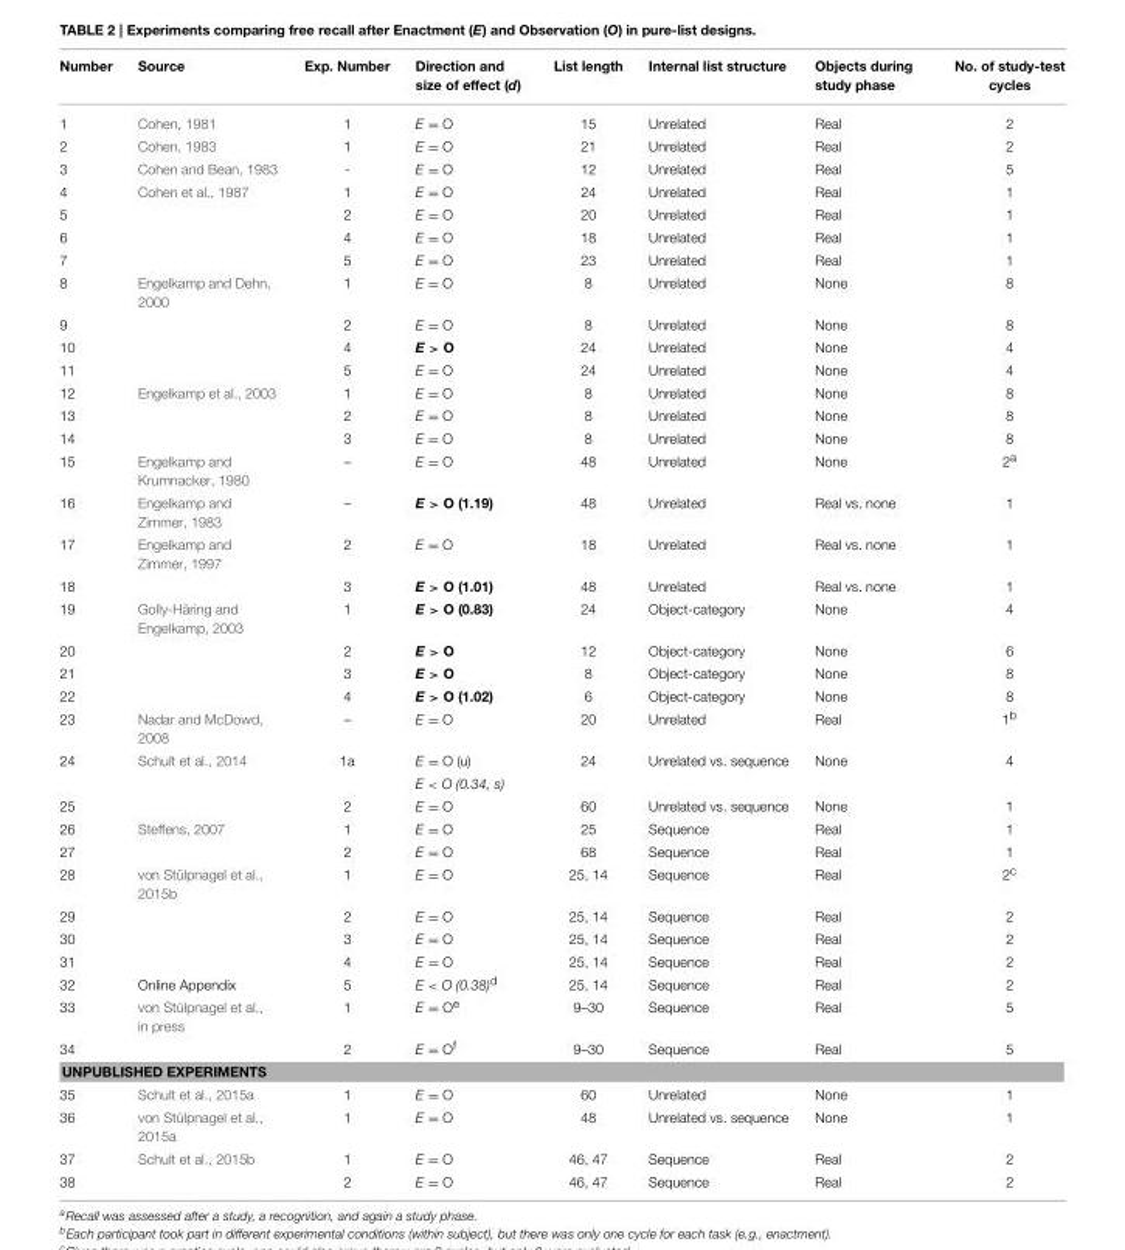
<table><thead><tr><td>Number</td><td>Source</td><td>Exp. Number</td><td>Direction and size of effect (d)</td><td>List length</td><td>Internal list structure</td><td>Objects during study phase</td><td>No. of study-test cycles</td></tr></thead><tbody><tr><td>1</td><td>Cohen, 1981</td><td>1</td><td>E = O</td><td>15</td><td>Unrelated</td><td>Real</td><td>2</td></tr><tr><td>2</td><td>Cohen, 1983</td><td>1</td><td>E = O</td><td>21</td><td>Unrelated</td><td>Real</td><td>2</td></tr><tr><td>3</td><td>Cohen and Bean, 1983</td><td>-</td><td>E = O</td><td>12</td><td>Unrelated</td><td>Real</td><td>5</td></tr><tr><td>4</td><td>Cohen et al., 1987</td><td>1</td><td>E = O</td><td>24</td><td>Unrelated</td><td>Real</td><td>1</td></tr><tr><td>5</td><td></td><td>2</td><td>E = O</td><td>20</td><td>Unrelated</td><td>Real</td><td>1</td></tr><tr><td>6</td><td></td><td>4</td><td>E = O</td><td>18</td><td>Unrelated</td><td>Real</td><td>1</td></tr><tr><td>7</td><td></td><td>5</td><td>E = O</td><td>23</td><td>Unrelated</td><td>Real</td><td>1</td></tr><tr><td>8</td><td>Engelkamp and Dehn, 2000</td><td>1</td><td>E = O</td><td>8</td><td>Unrelated</td><td>None</td><td>8</td></tr><tr><td>9</td><td></td><td>2</td><td>E = O</td><td>8</td><td>Unrelated</td><td>None</td><td>8</td></tr><tr><td>10</td><td></td><td>4</td><td>E &gt; O</td><td>24</td><td>Unrelated</td><td>None</td><td>4</td></tr><tr><td>11</td><td></td><td>5</td><td>E = O</td><td>24</td><td>Unrelated</td><td>None</td><td>4</td></tr><tr><td>12</td><td>Engelkamp et al., 2003</td><td>1</td><td>E = O</td><td>8</td><td>Unrelated</td><td>None</td><td>8</td></tr><tr><td>13</td><td></td><td>2</td><td>E = O</td><td>8</td><td>Unrelated</td><td>None</td><td>8</td></tr><tr><td>14</td><td></td><td>3</td><td>E = O</td><td>8</td><td>Unrelated</td><td>None</td><td>8</td></tr><tr><td>15</td><td>Engelkamp and Krumnacker, 1980</td><td>–</td><td>E = O</td><td>48</td><td>Unrelated</td><td>None</td><td>2<sup>a</sup></td></tr><tr><td>16</td><td>Engelkamp and Zimmer, 1983</td><td>–</td><td>E &gt; O (1.19)</td><td>48</td><td>Unrelated</td><td>Real vs. none</td><td>1</td></tr><tr><td>17</td><td>Engelkamp and Zimmer, 1997</td><td>2</td><td>E = O</td><td>18</td><td>Unrelated</td><td>Real vs. none</td><td>1</td></tr><tr><td>18</td><td></td><td>3</td><td>E &gt; O (1.01)</td><td>48</td><td>Unrelated</td><td>Real vs. none</td><td>1</td></tr><tr><td>19</td><td>Golly-Häring and Engelkamp, 2003</td><td>1</td><td>E &gt; O (0.83)</td><td>24</td><td>Object-category</td><td>None</td><td>4</td></tr><tr><td>20</td><td></td><td>2</td><td>E &gt; O</td><td>12</td><td>Object-category</td><td>None</td><td>6</td></tr><tr><td>21</td><td></td><td>3</td><td>E &gt; O</td><td>8</td><td>Object-category</td><td>None</td><td>8</td></tr><tr><td>22</td><td></td><td>4</td><td>E &gt; O (1.02)</td><td>6</td><td>Object-category</td><td>None</td><td>8</td></tr><tr><td>23</td><td>Nadar and McDowd, 2008</td><td>–</td><td>E = O</td><td>20</td><td>Unrelated</td><td>Real</td><td>1<sup>b</sup></td></tr><tr><td rowspan="2">24</td><td>Schult et al., 2014</td><td>1a</td><td>E = O (u)</td><td>24</td><td>Unrelated vs. sequence</td><td>None</td><td>4</td></tr><tr><td></td><td></td><td>E &lt; O (0.34, s)</td><td></td><td></td><td></td><td></td></tr><tr><td>25</td><td></td><td>2</td><td>E = O</td><td>60</td><td>Unrelated vs. sequence</td><td>None</td><td>1</td></tr><tr><td>26</td><td>Steffens, 2007</td><td>1</td><td>E = O</td><td>25</td><td>Sequence</td><td>Real</td><td>1</td></tr><tr><td>27</td><td></td><td>2</td><td>E = O</td><td>68</td><td>Sequence</td><td>Real</td><td>1</td></tr><tr><td>28</td><td>von Stülpnagel et al., 2015b</td><td>1</td><td>E = O</td><td>25, 14</td><td>Sequence</td><td>Real</td><td>2<sup>c</sup></td></tr><tr><td>29</td><td></td><td>2</td><td>E = O</td><td>25, 14</td><td>Sequence</td><td>Real</td><td>2</td></tr><tr><td>30</td><td></td><td>3</td><td>E = O</td><td>25, 14</td><td>Sequence</td><td>Real</td><td>2</td></tr><tr><td>31</td><td></td><td>4</td><td>E = O</td><td>25, 14</td><td>Sequence</td><td>Real</td><td>2</td></tr><tr><td>32</td><td>Online Appendix</td><td>5</td><td>E &lt; O (0.38)<sup>d</sup></td><td>25, 14</td><td>Sequence</td><td>Real</td><td>2</td></tr><tr><td>33</td><td>von Stülpnagel et al., in press</td><td>1</td><td>E = O<sup>e</sup></td><td>9–30</td><td>Sequence</td><td>Real</td><td>5</td></tr><tr><td>34</td><td></td><td>2</td><td>E = O<sup>f</sup></td><td>9–30</td><td>Sequence</td><td>Real</td><td>5</td></tr><tr><td colspan="8">UNPUBLISHED EXPERIMENTS</td></tr><tr><td>35</td><td>Schult et al., 2015a</td><td>1</td><td>E = O</td><td>60</td><td>Unrelated</td><td>None</td><td>1</td></tr><tr><td>36</td><td>von Stülpnagel et al., 2015a</td><td>1</td><td>E = O</td><td>48</td><td>Unrelated vs. sequence</td><td>None</td><td>1</td></tr><tr><td>37</td><td>Schult et al., 2015b</td><td>1</td><td>E = O</td><td>46, 47</td><td>Sequence</td><td>Real</td><td>2</td></tr><tr><td>38</td><td></td><td>2</td><td>E = O</td><td>46, 47</td><td>Sequence</td><td>Real</td><td>2</td></tr></tbody></table>